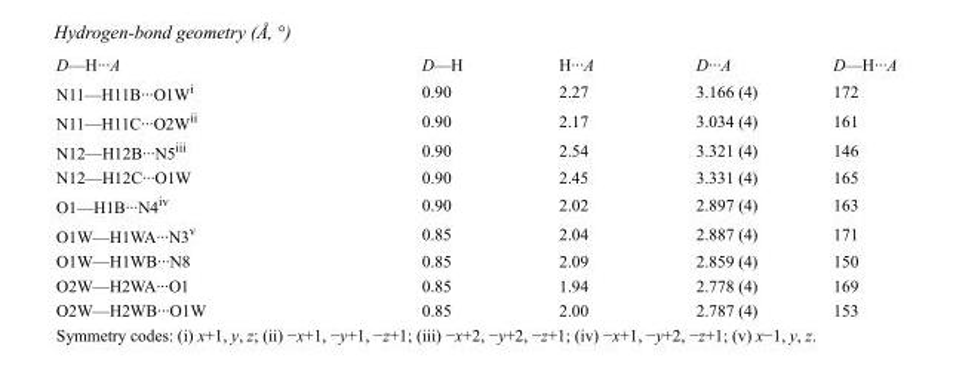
<table><tbody><tr><td>D—H···A</td><td>D—H</td><td>H···A</td><td>D···A</td><td>D—H···A</td></tr><tr><td>N11—H11B···O1W<sup>i</sup></td><td>0.90</td><td>2.27</td><td>3.166 (4)</td><td>172</td></tr><tr><td>N11—H11C···O2W<sup>ii</sup></td><td>0.90</td><td>2.17</td><td>3.034 (4)</td><td>161</td></tr><tr><td>N12—H12B···N5<sup>iii</sup></td><td>0.90</td><td>2.54</td><td>3.321 (4)</td><td>146</td></tr><tr><td>N12—H12C···O1W</td><td>0.90</td><td>2.45</td><td>3.331 (4)</td><td>165</td></tr><tr><td>O1—H1B···N4<sup>iv</sup></td><td>0.90</td><td>2.02</td><td>2.897 (4)</td><td>163</td></tr><tr><td>O1W—H1WA···N3<sup>v</sup></td><td>0.85</td><td>2.04</td><td>2.887 (4)</td><td>171</td></tr><tr><td>O1W—H1WB···N8</td><td>0.85</td><td>2.09</td><td>2.859 (4)</td><td>150</td></tr><tr><td>O2W—H2WA···O1</td><td>0.85</td><td>1.94</td><td>2.778 (4)</td><td>169</td></tr><tr><td>O2W—H2WB···O1W</td><td>0.85</td><td>2.00</td><td>2.787 (4)</td><td>153</td></tr></tbody></table>